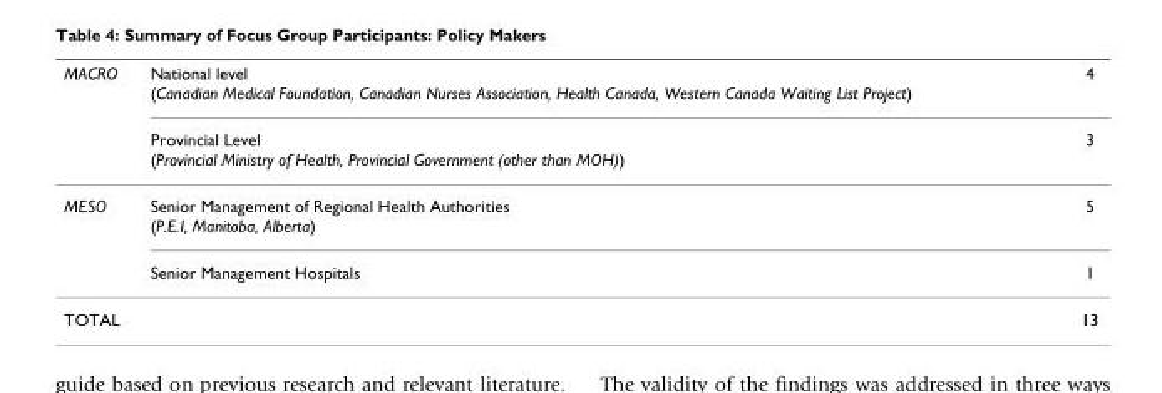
<table><thead><tr><td rowspan="2">MACRO</td><td rowspan="2">National level (Canadian Medical Foundation, Canadian Nurses Association, Health Canada, Western Canada Waiting List Project) Provincial Level (Provincial Ministry of Health, Provincial Government (other than MOH))</td><td rowspan="2">4 3</td></tr><tr></tr></thead><tbody><tr><td rowspan="2">MESO</td><td>Senior Management of Regional Health Authorities (P.E.I, Manitoba, Alberta)</td><td>5</td></tr><tr><td>Senior Management Hospitals</td><td>1</td></tr><tr><td>TOTAL</td><td></td><td>13</td></tr></tbody></table>